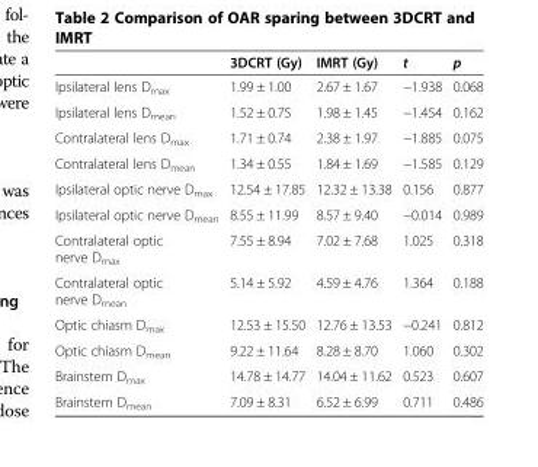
<table><thead><tr><td></td><td>3DCRT (Gy)</td><td>IMRT (Gy)</td><td>t</td><td>p</td></tr></thead><tbody><tr><td>Ipsilateral lens D<sub>max</sub></td><td>1.99 ± 1.00</td><td>2.67 ± 1.67</td><td>−1.938</td><td>0.068</td></tr><tr><td>Ipsilateral lens D<sub>mean</sub></td><td>1.52 ± 0.75</td><td>1.98 ± 1.45</td><td>−1.454</td><td>0.162</td></tr><tr><td>Contralateral lens D<sub>max</sub></td><td>1.71 ± 0.74</td><td>2.38 ± 1.97</td><td>−1.885</td><td>0.075</td></tr><tr><td>Contralateral lens D<sub>mean</sub></td><td>1.34 ± 0.55</td><td>1.84 ± 1.69</td><td>−1.585</td><td>0.129</td></tr><tr><td>Ipsilateral optic nerve D<sub>max</sub></td><td>12.54 ± 17.85</td><td>12.32 ± 13.38</td><td>0.156</td><td>0.877</td></tr><tr><td>Ipsilateral optic nerve D<sub>mean</sub></td><td>8.55 ± 11.99</td><td>8.57 ± 9.40</td><td>−0.014</td><td>0.989</td></tr><tr><td>Contralateral optic nerve D<sub>max</sub></td><td>7.55 ± 8.94</td><td>7.02 ± 7.68</td><td>1.025</td><td>0.318</td></tr><tr><td>Contralateral optic nerve D<sub>mean</sub></td><td>5.14 ± 5.92</td><td>4.59 ± 4.76</td><td>1.364</td><td>0.188</td></tr><tr><td>Optic chiasm D<sub>max</sub></td><td>12.53 ± 15.50</td><td>12.76 ± 13.53</td><td>−0.241</td><td>0.812</td></tr><tr><td>Optic chiasm D<sub>mean</sub></td><td>9.22 ± 11.64</td><td>8.28 ± 8.70</td><td>1.060</td><td>0.302</td></tr><tr><td>Brainstem D<sub>max</sub></td><td>14.78 ± 14.77</td><td>14.04 ± 11.62</td><td>0.523</td><td>0.607</td></tr><tr><td>Brainstem D<sub>mean</sub></td><td>7.09 ± 8.31</td><td>6.52 ± 6.99</td><td>0.711</td><td>0.486</td></tr></tbody></table>